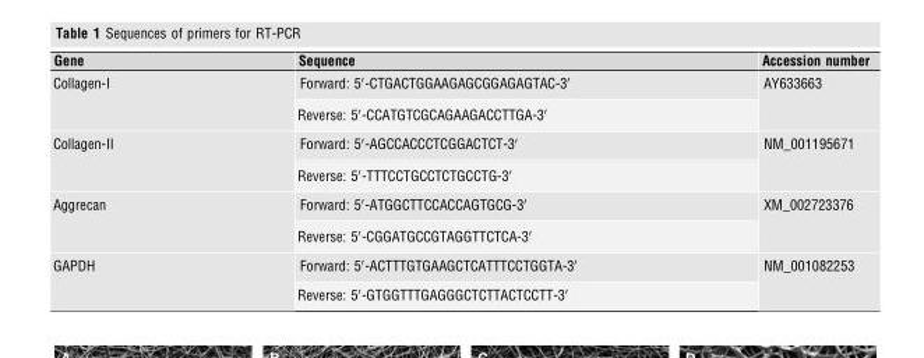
<table><thead><tr><td>Gene</td><td>Sequence</td><td>Accession number</td></tr></thead><tbody><tr><td rowspan="2">Collagen-I</td><td>Forward: 5′-CTGACTGGAAGAGCGGAGAGTAC-3′</td><td rowspan="2">AY633663</td></tr><tr><td>Reverse: 5′-CCATGTCGCAGAAGACCTTGA-3′</td></tr><tr><td rowspan="2">Collagen-II</td><td>Forward: 5′-AGCCACCCTCGGACTCT-3′</td><td rowspan="2">NM_001195671</td></tr><tr><td>Reverse: 5′-TTTCCTGCCTCTGCCTG-3′</td></tr><tr><td rowspan="2">Aggrecan</td><td>Forward: 5′-ATGGCTTCCACCAGTGCG-3′</td><td rowspan="2">XM_002723376</td></tr><tr><td>Reverse: 5′-CGGATGCCGTAGGTTCTCA-3′</td></tr><tr><td rowspan="2">GAPDH</td><td>Forward: 5′-ACTTTGTGAAGCTCATTTCCTGGTA-3′</td><td rowspan="2">NM_001082253</td></tr><tr><td>Reverse: 5′-GTGGTTTGAGGGCTCTTACTCCTT-3′</td></tr></tbody></table>